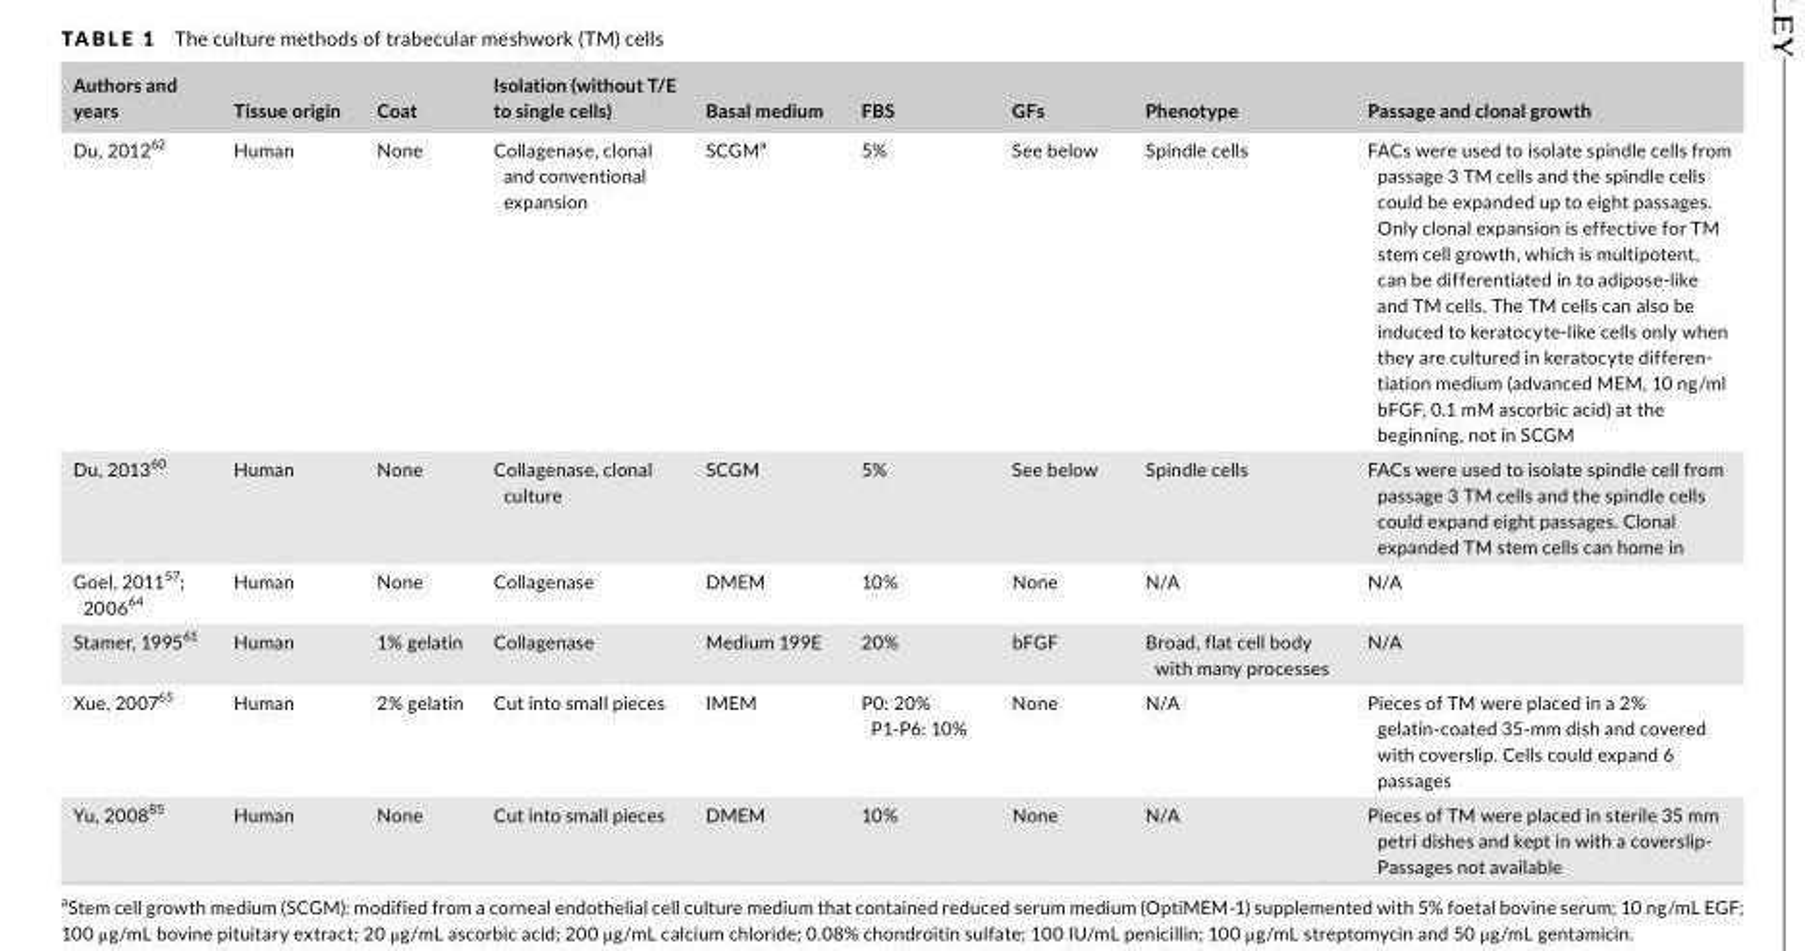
<table><thead><tr><td>Authors and years</td><td>Tissue origin</td><td>Coat</td><td>Isolation (without T/E to single cells)</td><td>Basal medium</td><td>FBS</td><td>GFs</td><td>Phenotype</td><td>Passage and clonal growth</td></tr></thead><tbody><tr><td>Du, 2012<sup>62</sup></td><td>Human</td><td>None</td><td>Collagenase, clonal and conventional expansion</td><td>SCGM<sup>a</sup></td><td>5%</td><td>See below</td><td>Spindle cells</td><td>FACs were used to isolate spindle cells from passage 3 TM cells and the spindle cells could be expanded up to eight passages. Only clonal expansion is effective for TM stem cell growth, which is multipotent, can be differentiated in to adipose- like and TM cells. The TM cells can also be induced to keratocyte- like cells only when they are cultured in keratocyte differen- tiation medium (advanced MEM, 10 ng/ml bFGF, 0.1 mM ascorbic acid) at the beginning, not in SCGM</td></tr><tr><td>Du, 2013<sup>60</sup></td><td>Human</td><td>None</td><td>Collagenase, clonal culture</td><td>SCGM</td><td>5%</td><td>See below</td><td>Spindle cells</td><td>FACs were used to isolate spindle cell from passage 3 TM cells and the spindle cells could expand eight passages. Clonal expanded TM stem cells can home in</td></tr><tr><td>Goel, 2011<sup>57</sup>; 2006<sup>64</sup></td><td>Human</td><td>None</td><td>Collagenase</td><td>DMEM</td><td>10%</td><td>None</td><td>N/A</td><td>N/A</td></tr><tr><td>Stamer, 1995<sup>61</sup></td><td>Human</td><td>1% gelatin</td><td>Collagenase</td><td>Medium 199E</td><td>20%</td><td>bFGF</td><td>Broad, flat cell body with many processes</td><td>N/A</td></tr><tr><td>Xue, 2007<sup>65</sup></td><td>Human</td><td>2% gelatin</td><td>Cut into small pieces</td><td>IMEM</td><td>P0: 20% P1- P6: 10%</td><td>None</td><td>N/A</td><td>Pieces of TM were placed in a 2% gelatin- coated 35- mm dish and covered with coverslip. Cells could expand 6 passages</td></tr><tr><td>Yu, 2008<sup>85</sup></td><td>Human</td><td>None</td><td>Cut into small pieces</td><td>DMEM</td><td>10%</td><td>None</td><td>N/A</td><td>Pieces of TM were placed in sterile 35 mm petri dishes and kept in with a coverslip- Passages not available</td></tr></tbody></table>